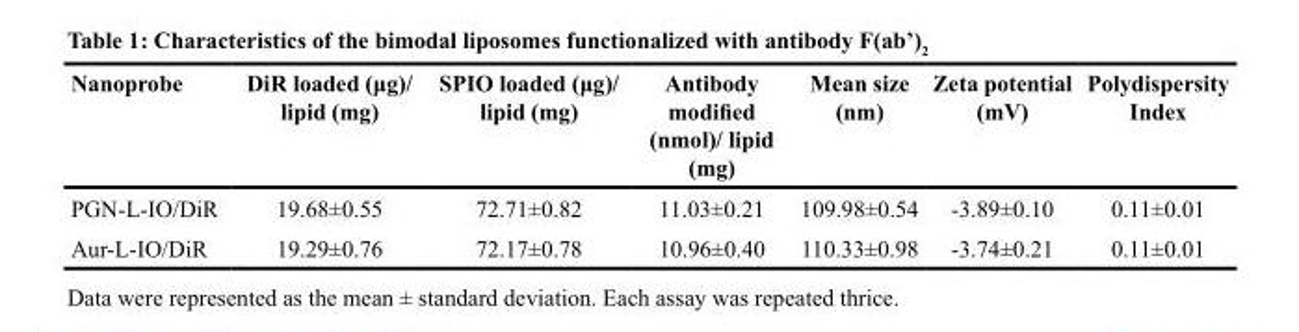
<table><thead><tr><td>Nanoprobe</td><td>DiR loaded (μg)/ lipid (mg)</td><td>SPIO loaded (μg)/ lipid (mg)</td><td>Antibody modified (nmol)/ lipid (mg)</td><td>Mean size (nm)</td><td>Zeta potential (mV)</td><td>Polydispersity Index</td></tr></thead><tbody><tr><td>PGN-L-IO/DiR</td><td>19.68±0.55</td><td>72.71±0.82</td><td>11.03±0.21</td><td>109.98±0.54</td><td>-3.89±0.10</td><td>0.11±0.01</td></tr><tr><td>Aur-L-IO/DiR</td><td>19.29±0.76</td><td>72.17±0.78</td><td>10.96±0.40</td><td>110.33±0.98</td><td>-3.74±0.21</td><td>0.11±0.01</td></tr></tbody></table>